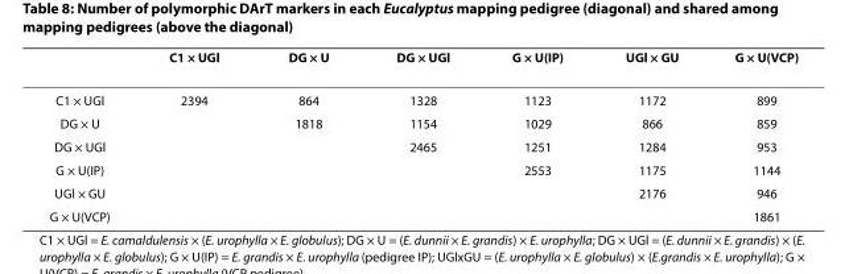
<table><thead><tr><td></td><td>C1 × UGl</td><td>DG × U</td><td>DG × UGl</td><td>G × U(IP)</td><td>UGl × GU</td><td>G × U(VCP)</td></tr></thead><tbody><tr><td>C1 × UGl</td><td>2394</td><td>864</td><td>1328</td><td>1123</td><td>1172</td><td>899</td></tr><tr><td>DG × U</td><td></td><td>1818</td><td>1154</td><td>1029</td><td>866</td><td>859</td></tr><tr><td>DG × UGl</td><td></td><td></td><td>2465</td><td>1251</td><td>1284</td><td>953</td></tr><tr><td>G × U(IP)</td><td></td><td></td><td></td><td>2553</td><td>1175</td><td>1144</td></tr><tr><td>UGl × GU</td><td></td><td></td><td></td><td></td><td>2176</td><td>946</td></tr><tr><td>G × U(VCP)</td><td></td><td></td><td></td><td></td><td></td><td>1861</td></tr></tbody></table>